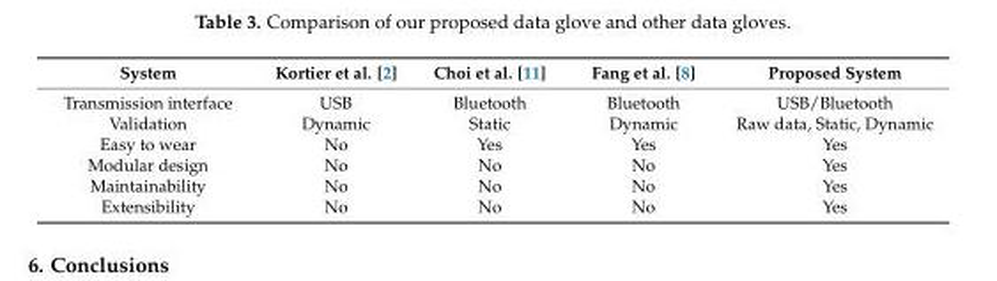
<table><thead><tr><td>System</td><td>Kortier et al. [2]</td><td>Choi et al. [11]</td><td>Fang et al. [8]</td><td>Proposed System</td></tr></thead><tbody><tr><td>Transmission interface</td><td>USB</td><td>Bluetooth</td><td>Bluetooth</td><td>USB/Bluetooth</td></tr><tr><td>Validation</td><td>Dynamic</td><td>Static</td><td>Dynamic</td><td>Raw data, Static, Dynamic</td></tr><tr><td>Easy to wear</td><td>No</td><td>Yes</td><td>Yes</td><td>Yes</td></tr><tr><td>Modular design</td><td>No</td><td>No</td><td>No</td><td>Yes</td></tr><tr><td>Maintainability</td><td>No</td><td>No</td><td>No</td><td>Yes</td></tr><tr><td>Extensibility</td><td>No</td><td>No</td><td>No</td><td>Yes</td></tr></tbody></table>